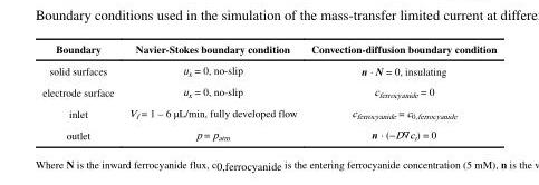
<table><thead><tr><td>Boundary</td><td>Navier-Stokes boundary condition</td><td>Convection-diffusion boundary condition</td></tr></thead><tbody><tr><td>solid surfaces</td><td>u<sub>x</sub> = 0, no-slip</td><td>n · N = 0, insulating</td></tr><tr><td>electrode surface</td><td>u<sub>x</sub> = 0, no-slip</td><td>c<sub>ferrocyanide</sub> = 0</td></tr><tr><td>inlet</td><td>V<sub>f</sub> = 1 – 6 μL/min, fully developed flow</td><td>c<sub>ferrocyanide</sub> = c<sub>0,ferrocyanide</sub></td></tr><tr><td>outlet</td><td>p = p<sub>atm</sub></td><td>n · (−D∇c<sub>i</sub>) = 0</td></tr></tbody></table>